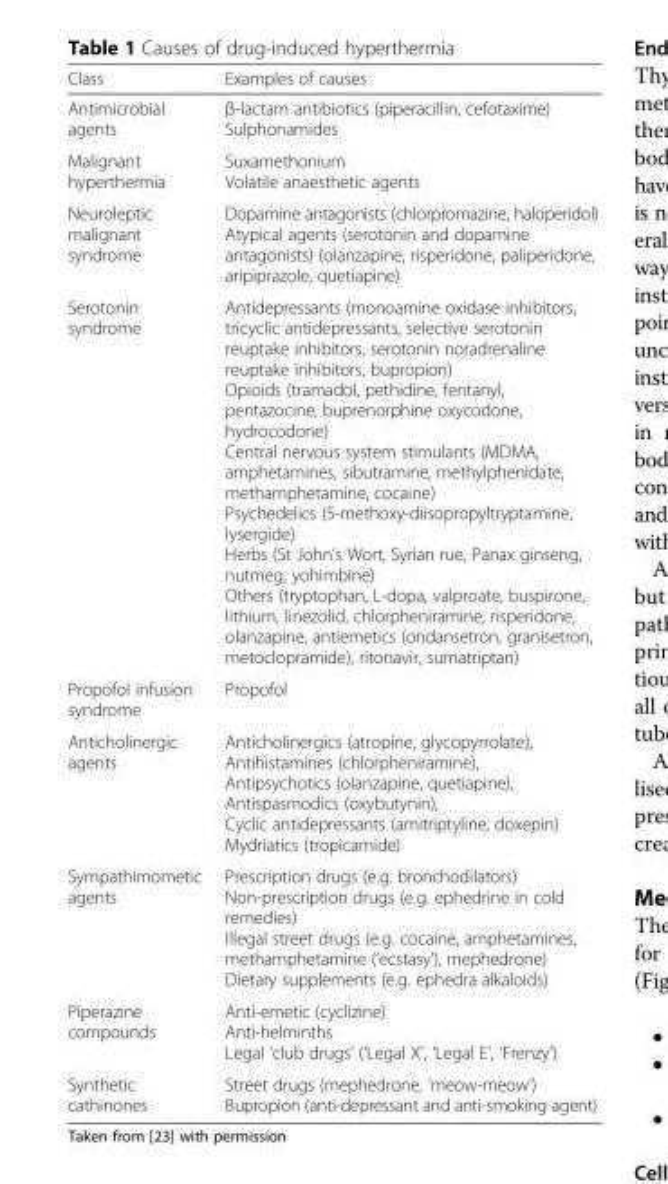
<table><thead><tr><td>Class</td><td>Examples of causes</td></tr></thead><tbody><tr><td>Antimicrobial agents</td><td>β-lactam antibiotics (piperacillin, cefotaxime) Sulphonamides</td></tr><tr><td>Malignant hyperthermia</td><td>Suxamethonium Volatile anaesthetic agents</td></tr><tr><td>Neuroleptic malignant syndrome</td><td>Dopamine antagonists (chlorpromazine, haloperidol) Atypical agents (serotonin and dopamine antagonists) (olanzapine, risperidone, paliperidone, aripiprazole, quetiapine)</td></tr><tr><td>Serotonin syndrome</td><td>Antidepressants (monoamine oxidase inhibitors, tricyclic antidepressants, selective serotonin reuptake inhibitors, serotonin noradrenaline reuptake inhibitors, bupropion) Opioids (tramadol, pethidine, fentanyl, pentazocine, buprenorphine oxycodone, hydrocodone) Central nervous system stimulants (MDMA, amphetamines, sibutramine, methylphenidate, methamphetamine, cocaine) Psychedelics (5-methoxy-diisopropyltryptamine, lysergide) Herbs (St John’s Wort, Syrian rue, Panax ginseng, nutmeg, yohimbine) Others (tryptophan, L-dopa, valproate, buspirone, lithium, linezolid, chlorpheniramine, risperidone, olanzapine, antiemetics (ondansetron, granisetron, metoclopramide), ritonavir, sumatriptan)</td></tr><tr><td>Propofol infusion syndrome</td><td>Propofol</td></tr><tr><td>Anticholinergic agents</td><td>Anticholinergics (atropine, glycopyrrolate), Antihistamines (chlorpheniramine), Antipsychotics (olanzapine, quetiapine), Antispasmodics (oxybutynin), Cyclic antidepressants (amitriptyline, doxepin) Mydriatics (tropicamide)</td></tr><tr><td>Sympathimometic agents</td><td>Prescription drugs (e.g. bronchodilators) Non-prescription drugs (e.g. ephedrine in cold remedies) Illegal street drugs (e.g. cocaine, amphetamines, methamphetamine (‘ecstasy’), mephedrone) Dietary supplements (e.g. ephedra alkaloids)</td></tr><tr><td>Piperazine compounds</td><td>Anti-emetic (cyclizine) Anti-helminths Legal ‘club drugs’ (‘Legal X’, ‘Legal E’, ‘Frenzy’)</td></tr><tr><td>Synthetic cathinones</td><td>Street drugs (mephedrone, ‘meow-meow’) Bupropion (anti-depressant and anti-smoking agent)</td></tr></tbody></table>